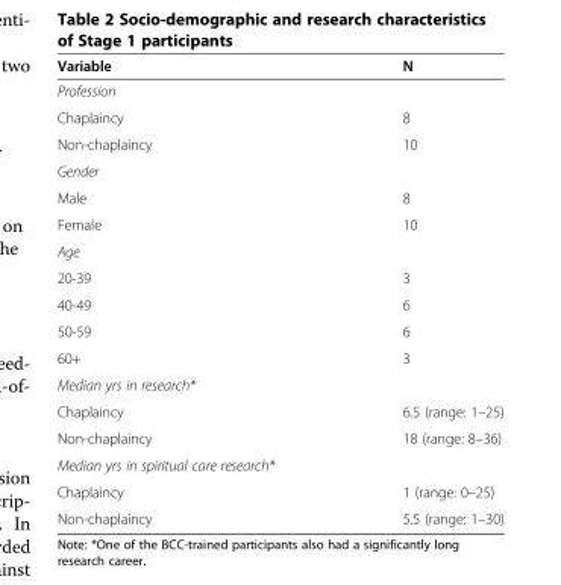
<table><thead><tr><td>Variable</td><td>N</td></tr></thead><tbody><tr><td colspan="2">Profession</td></tr><tr><td>Chaplaincy</td><td>8</td></tr><tr><td>Non-chaplaincy</td><td>10</td></tr><tr><td colspan="2">Gender</td></tr><tr><td>Male</td><td>8</td></tr><tr><td>Female</td><td>10</td></tr><tr><td colspan="2">Age</td></tr><tr><td>20-39</td><td>3</td></tr><tr><td>40-49</td><td>6</td></tr><tr><td>50-59</td><td>6</td></tr><tr><td>60+</td><td>3</td></tr><tr><td colspan="2">Median yrs in research*</td></tr><tr><td>Chaplaincy</td><td>6.5 (range: 1–25)</td></tr><tr><td>Non-chaplaincy</td><td>18 (range: 8–36)</td></tr><tr><td colspan="2">Median yrs in spiritual care research*</td></tr><tr><td>Chaplaincy</td><td>1 (range: 0–25)</td></tr><tr><td>Non-chaplaincy</td><td>5.5 (range: 1–30)</td></tr></tbody></table>